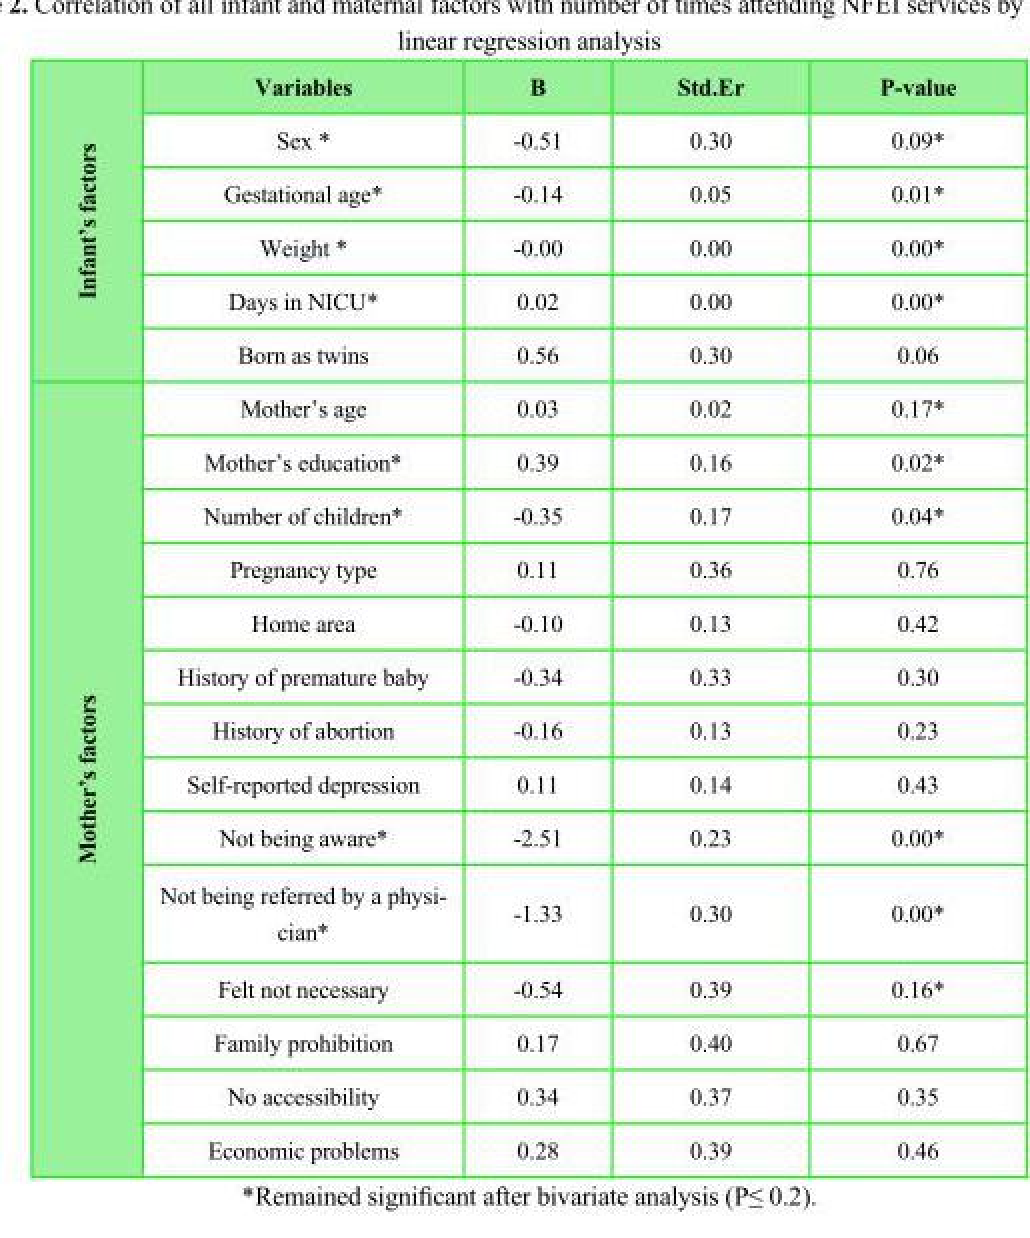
<table><thead><tr><td></td><td>Variables</td><td>B</td><td>Std.Er</td><td>P-value</td></tr></thead><tbody><tr><td rowspan="5">Infant’s factors</td><td>Sex *</td><td>-0.51</td><td>0.30</td><td>0.09*</td></tr><tr><td>Gestational age*</td><td>-0.14</td><td>0.05</td><td>0.01*</td></tr><tr><td>Weight *</td><td>-0.00</td><td>0.00</td><td>0.00*</td></tr><tr><td>Days in NICU*</td><td>0.02</td><td>0.00</td><td>0.00*</td></tr><tr><td>Born as twins</td><td>0.56</td><td>0.30</td><td>0.06</td></tr><tr><td rowspan="14">Mother’s factors</td><td>Mother’s age</td><td>0.03</td><td>0.02</td><td>0.17*</td></tr><tr><td>Mother’s education*</td><td>0.39</td><td>0.16</td><td>0.02*</td></tr><tr><td>Number of children*</td><td>-0.35</td><td>0.17</td><td>0.04*</td></tr><tr><td>Pregnancy type</td><td>0.11</td><td>0.36</td><td>0.76</td></tr><tr><td>Home area</td><td>-0.10</td><td>0.13</td><td>0.42</td></tr><tr><td>History of premature baby</td><td>-0.34</td><td>0.33</td><td>0.30</td></tr><tr><td>History of abortion</td><td>-0.16</td><td>0.13</td><td>0.23</td></tr><tr><td>Self-reported depression</td><td>0.11</td><td>0.14</td><td>0.43</td></tr><tr><td>Not being aware*</td><td>-2.51</td><td>0.23</td><td>0.00*</td></tr><tr><td>Not being referred by a physi- cian*</td><td>-1.33</td><td>0.30</td><td>0.00*</td></tr><tr><td>Felt not necessary</td><td>-0.54</td><td>0.39</td><td>0.16*</td></tr><tr><td>Family prohibition</td><td>0.17</td><td>0.40</td><td>0.67</td></tr><tr><td>No accessibility</td><td>0.34</td><td>0.37</td><td>0.35</td></tr><tr><td>Economic problems</td><td>0.28</td><td>0.39</td><td>0.46</td></tr></tbody></table>